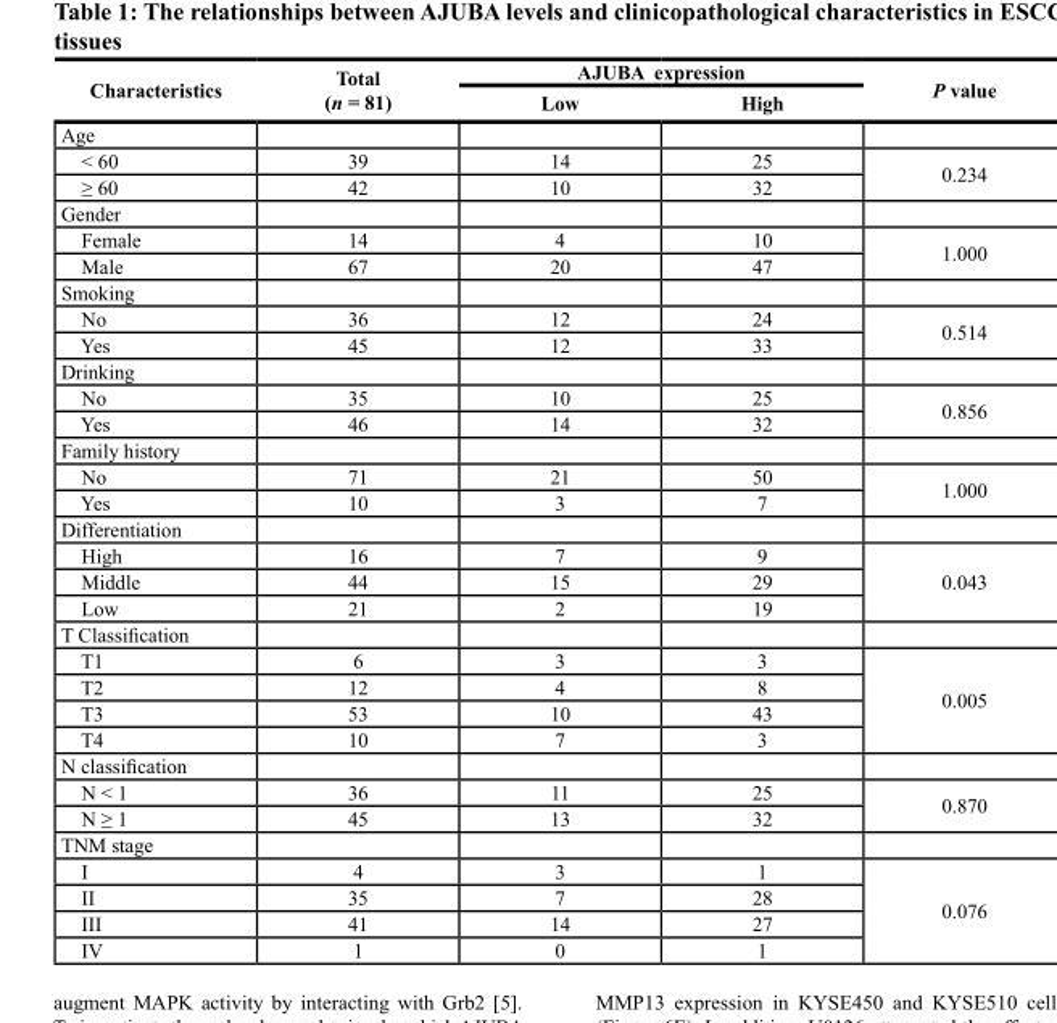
<table><thead><tr><td rowspan="2">characteristics</td><td rowspan="2">total (n = 81)</td><td colspan="2">AJubA expression</td><td rowspan="2">P value</td></tr><tr><td>Low</td><td>High</td></tr></thead><tbody><tr><td colspan="5">Age</td></tr><tr><td>&lt; 60</td><td>39</td><td>14</td><td>25</td><td rowspan="2">0.234</td></tr><tr><td>≥ 60</td><td>42</td><td>10</td><td>32</td></tr><tr><td colspan="5">Gender</td></tr><tr><td>Female</td><td>14</td><td>4</td><td>10</td><td rowspan="2">1.000</td></tr><tr><td>Male</td><td>67</td><td>20</td><td>47</td></tr><tr><td colspan="5">Smoking</td></tr><tr><td>No</td><td>36</td><td>12</td><td>24</td><td rowspan="2">0.514</td></tr><tr><td>Yes</td><td>45</td><td>12</td><td>33</td></tr><tr><td colspan="5">Drinking</td></tr><tr><td>No</td><td>35</td><td>10</td><td>25</td><td rowspan="2">0.856</td></tr><tr><td>Yes</td><td>46</td><td>14</td><td>32</td></tr><tr><td colspan="5">Family history</td></tr><tr><td>No</td><td>71</td><td>21</td><td>50</td><td rowspan="2">1.000</td></tr><tr><td>Yes</td><td>10</td><td>3</td><td>7</td></tr><tr><td colspan="5">Differentiation</td></tr><tr><td>High</td><td>16</td><td>7</td><td>9</td><td rowspan="3">0.043</td></tr><tr><td>Middle</td><td>44</td><td>15</td><td>29</td></tr><tr><td>Low</td><td>21</td><td>2</td><td>19</td></tr><tr><td colspan="5">T Classification</td></tr><tr><td>T1</td><td>6</td><td>3</td><td>3</td><td rowspan="4">0.005</td></tr><tr><td>T2</td><td>12</td><td>4</td><td>8</td></tr><tr><td>T3</td><td>53</td><td>10</td><td>43</td></tr><tr><td>T4</td><td>10</td><td>7</td><td>3</td></tr><tr><td colspan="5">N classification</td></tr><tr><td>N &lt; 1</td><td>36</td><td>11</td><td>25</td><td rowspan="2">0.870</td></tr><tr><td>N ≥ 1</td><td>45</td><td>13</td><td>32</td></tr><tr><td colspan="5">TNM stage</td></tr><tr><td>I</td><td>4</td><td>3</td><td>1</td><td rowspan="4">0.076</td></tr><tr><td>II</td><td>35</td><td>7</td><td>28</td></tr><tr><td>III</td><td>41</td><td>14</td><td>27</td></tr><tr><td>IV</td><td>1</td><td>0</td><td>1</td></tr></tbody></table>